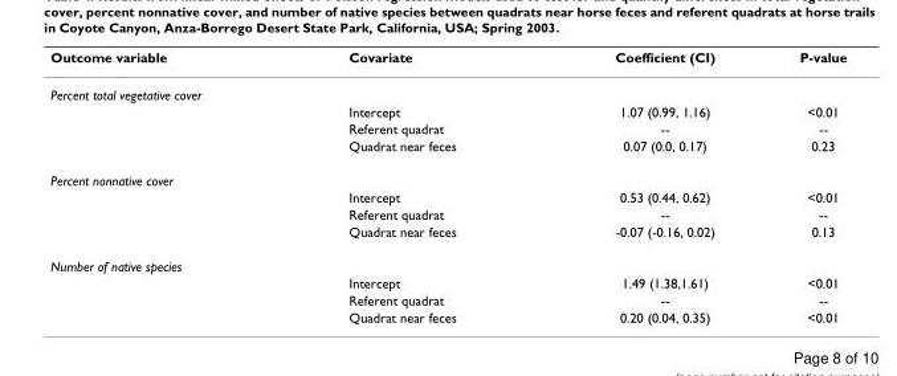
<table><thead><tr><td>Outcome variable</td><td>Covariate</td><td>Coefficient (CI)</td><td>P-value</td></tr></thead><tbody><tr><td colspan="4">Percent total vegetative cover</td></tr><tr><td></td><td>Intercept</td><td>1.07 (0.99, 1.16)</td><td>&lt;0.01</td></tr><tr><td></td><td>Referent quadrat</td><td>--</td><td>--</td></tr><tr><td></td><td>Quadrat near feces</td><td>0.07 (0.0, 0.17)</td><td>0.23</td></tr><tr><td colspan="4">Percent nonnative cover</td></tr><tr><td></td><td>Intercept</td><td>0.53 (0.44, 0.62)</td><td>&lt;0.01</td></tr><tr><td></td><td>Referent quadrat</td><td>--</td><td>--</td></tr><tr><td></td><td>Quadrat near feces</td><td>-0.07 (-0.16, 0.02)</td><td>0.13</td></tr><tr><td colspan="4">Number of native species</td></tr><tr><td></td><td>Intercept</td><td>1.49 (1.38,1.61)</td><td>&lt;0.01</td></tr><tr><td></td><td>Referent quadrat</td><td>--</td><td>--</td></tr><tr><td></td><td>Quadrat near feces</td><td>0.20 (0.04, 0.35)</td><td>&lt;0.01</td></tr></tbody></table>